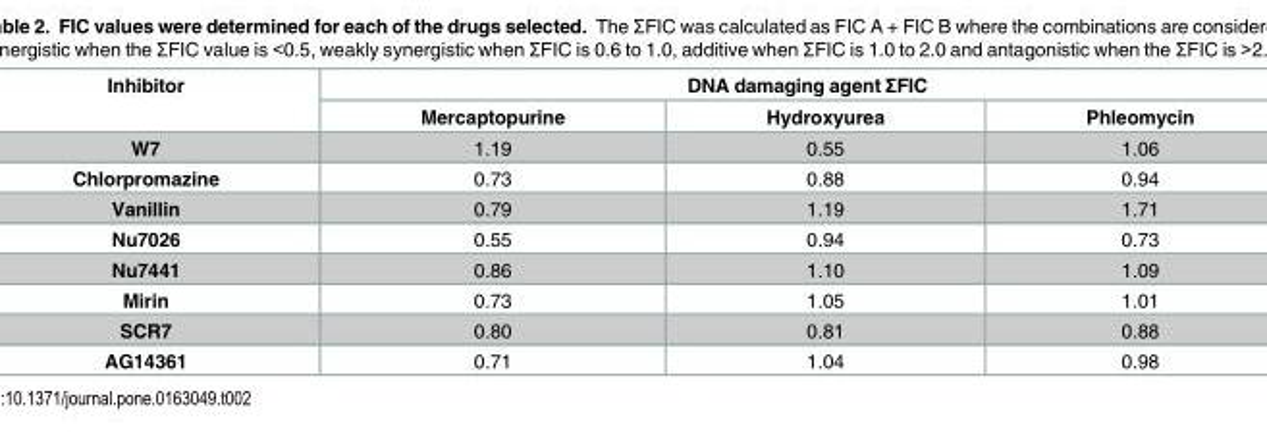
<table><thead><tr><td rowspan="2">Inhibitor</td><td colspan="3">DNA damaging agent ΣFIC</td></tr><tr><td>Mercaptopurine</td><td>Hydroxyurea</td><td>Phleomycin</td></tr></thead><tbody><tr><td>W7</td><td>1.19</td><td>0.55</td><td>1.06</td></tr><tr><td>Chlorpromazine</td><td>0.73</td><td>0.88</td><td>0.94</td></tr><tr><td>Vanillin</td><td>0.79</td><td>1.19</td><td>1.71</td></tr><tr><td>Nu7026</td><td>0.55</td><td>0.94</td><td>0.73</td></tr><tr><td>Nu7441</td><td>0.86</td><td>1.10</td><td>1.09</td></tr><tr><td>Mirin</td><td>0.73</td><td>1.05</td><td>1.01</td></tr><tr><td>SCR7</td><td>0.80</td><td>0.81</td><td>0.88</td></tr><tr><td>AG14361</td><td>0.71</td><td>1.04</td><td>0.98</td></tr></tbody></table>